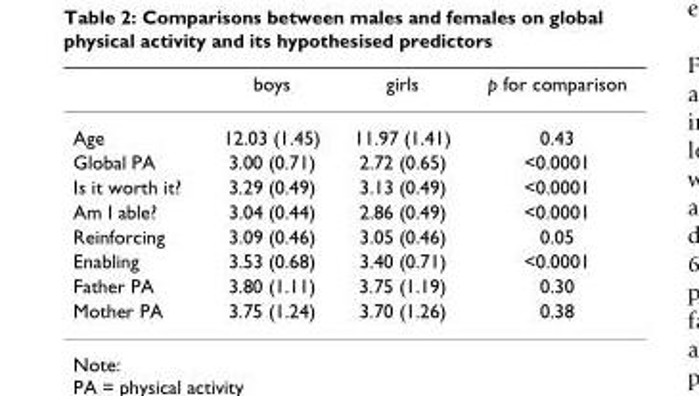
<table><thead><tr><td></td><td>boys</td><td>girls</td><td>p for comparison</td></tr></thead><tbody><tr><td>Age</td><td>12.03 (1.45)</td><td>11.97 (1.41)</td><td>0.43</td></tr><tr><td>Global PA</td><td>3.00 (0.71)</td><td>2.72 (0.65)</td><td>&lt;0.0001</td></tr><tr><td>Is it worth it?</td><td>3.29 (0.49)</td><td>3.13 (0.49)</td><td>&lt;0.0001</td></tr><tr><td>Am I able?</td><td>3.04 (0.44)</td><td>2.86 (0.49)</td><td>&lt;0.0001</td></tr><tr><td>Reinforcing</td><td>3.09 (0.46)</td><td>3.05 (0.46)</td><td>0.05</td></tr><tr><td>Enabling</td><td>3.53 (0.68)</td><td>3.40 (0.71)</td><td>&lt;0.0001</td></tr><tr><td>Father PA</td><td>3.80 (1.11)</td><td>3.75 (1.19)</td><td>0.30</td></tr><tr><td>Mother PA</td><td>3.75 (1.24)</td><td>3.70 (1.26)</td><td>0.38</td></tr></tbody></table>